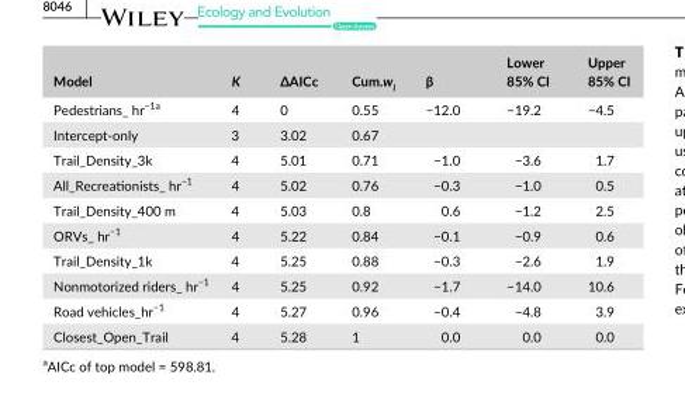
<table><thead><tr><td>Model</td><td>K</td><td>ΔAICc</td><td>Cum.w<sub>i</sub></td><td>β</td><td>Lower 85% CI</td><td>Upper 85% CI</td></tr></thead><tbody><tr><td>Pedestrians_ hr<sup>−1</sup>a</td><td>4</td><td>0</td><td>0.55</td><td>−12.0</td><td>−19.2</td><td>−4.5</td></tr><tr><td>Intercept- only</td><td>3</td><td>3.02</td><td>0.67</td><td></td><td></td><td></td></tr><tr><td>Trail_Density_3k</td><td>4</td><td>5.01</td><td>0.71</td><td>−1.0</td><td>−3.6</td><td>1.7</td></tr><tr><td>All_Recreationists_ hr<sup>−1</sup></td><td>4</td><td>5.02</td><td>0.76</td><td>−0.3</td><td>−1.0</td><td>0.5</td></tr><tr><td>Trail_Density_400 m</td><td>4</td><td>5.03</td><td>0.8</td><td>0.6</td><td>−1.2</td><td>2.5</td></tr><tr><td>ORVs_ hr<sup>−1</sup></td><td>4</td><td>5.22</td><td>0.84</td><td>−0.1</td><td>−0.9</td><td>0.6</td></tr><tr><td>Trail_Density_1k</td><td>4</td><td>5.25</td><td>0.88</td><td>−0.3</td><td>−2.6</td><td>1.9</td></tr><tr><td>Nonmotorized riders_ hr<sup>−1</sup></td><td>4</td><td>5.25</td><td>0.92</td><td>−1.7</td><td>−14.0</td><td>10.6</td></tr><tr><td>Road vehicles_hr<sup>−1</sup></td><td>4</td><td>5.27</td><td>0.96</td><td>−0.4</td><td>−4.8</td><td>3.9</td></tr><tr><td>Closest_Open_Trail</td><td>4</td><td>5.28</td><td>1</td><td>0.0</td><td>0.0</td><td>0.0</td></tr></tbody></table>